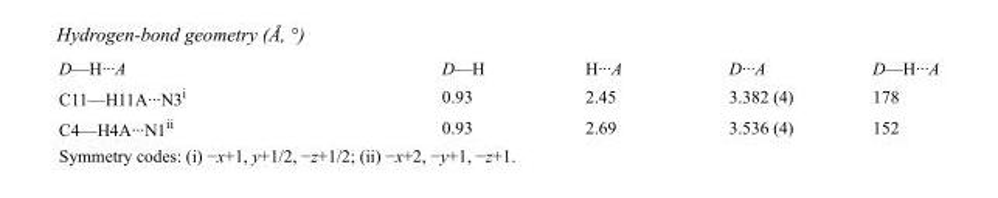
<table><tbody><tr><td>D—H···A</td><td>D—H</td><td>H···A</td><td>D···A</td><td>D—H···A</td></tr><tr><td>C11—H11A···N3<sup>i</sup></td><td>0.93</td><td>2.45</td><td>3.382 (4)</td><td>178</td></tr><tr><td>C4—H4A···N1<sup>ii</sup></td><td>0.93</td><td>2.69</td><td>3.536 (4)</td><td>152</td></tr></tbody></table>